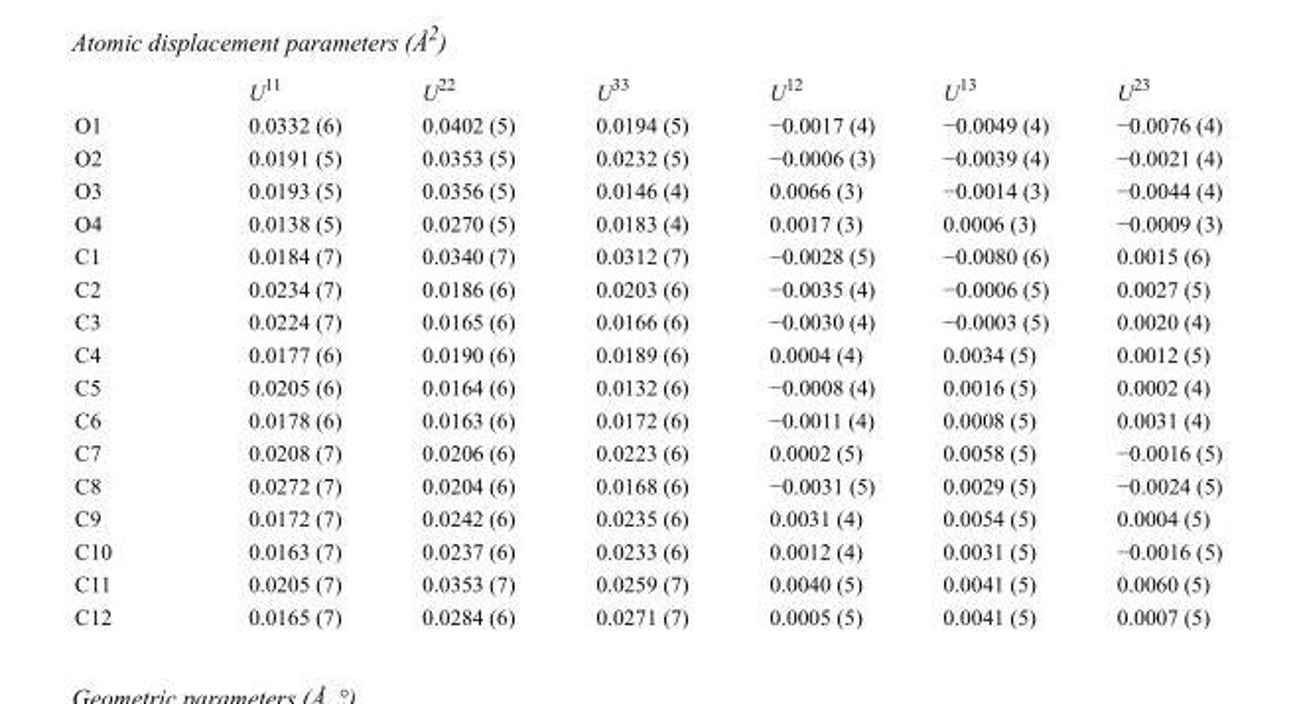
<table><thead><tr><td></td><td>U<sup>11</sup></td><td>U<sup>22</sup></td><td>U<sup>33</sup></td><td>U<sup>12</sup></td><td>U<sup>13</sup></td><td>U<sup>23</sup></td></tr></thead><tbody><tr><td>O1</td><td>0.0332 (6)</td><td>0.0402 (5)</td><td>0.0194 (5)</td><td>−0.0017 (4)</td><td>−0.0049 (4)</td><td>−0.0076 (4)</td></tr><tr><td>O2</td><td>0.0191 (5)</td><td>0.0353 (5)</td><td>0.0232 (5)</td><td>−0.0006 (3)</td><td>−0.0039 (4)</td><td>−0.0021 (4)</td></tr><tr><td>O3</td><td>0.0193 (5)</td><td>0.0356 (5)</td><td>0.0146 (4)</td><td>0.0066 (3)</td><td>−0.0014 (3)</td><td>−0.0044 (4)</td></tr><tr><td>O4</td><td>0.0138 (5)</td><td>0.0270 (5)</td><td>0.0183 (4)</td><td>0.0017 (3)</td><td>0.0006 (3)</td><td>−0.0009 (3)</td></tr><tr><td>C1</td><td>0.0184 (7)</td><td>0.0340 (7)</td><td>0.0312 (7)</td><td>−0.0028 (5)</td><td>−0.0080 (6)</td><td>0.0015 (6)</td></tr><tr><td>C2</td><td>0.0234 (7)</td><td>0.0186 (6)</td><td>0.0203 (6)</td><td>−0.0035 (4)</td><td>−0.0006 (5)</td><td>0.0027 (5)</td></tr><tr><td>C3</td><td>0.0224 (7)</td><td>0.0165 (6)</td><td>0.0166 (6)</td><td>−0.0030 (4)</td><td>−0.0003 (5)</td><td>0.0020 (4)</td></tr><tr><td>C4</td><td>0.0177 (6)</td><td>0.0190 (6)</td><td>0.0189 (6)</td><td>0.0004 (4)</td><td>0.0034 (5)</td><td>0.0012 (5)</td></tr><tr><td>C5</td><td>0.0205 (6)</td><td>0.0164 (6)</td><td>0.0132 (6)</td><td>−0.0008 (4)</td><td>0.0016 (5)</td><td>0.0002 (4)</td></tr><tr><td>C6</td><td>0.0178 (6)</td><td>0.0163 (6)</td><td>0.0172 (6)</td><td>−0.0011 (4)</td><td>0.0008 (5)</td><td>0.0031 (4)</td></tr><tr><td>C7</td><td>0.0208 (7)</td><td>0.0206 (6)</td><td>0.0223 (6)</td><td>0.0002 (5)</td><td>0.0058 (5)</td><td>−0.0016 (5)</td></tr><tr><td>C8</td><td>0.0272 (7)</td><td>0.0204 (6)</td><td>0.0168 (6)</td><td>−0.0031 (5)</td><td>0.0029 (5)</td><td>−0.0024 (5)</td></tr><tr><td>C9</td><td>0.0172 (7)</td><td>0.0242 (6)</td><td>0.0235 (6)</td><td>0.0031 (4)</td><td>0.0054 (5)</td><td>0.0004 (5)</td></tr><tr><td>C10</td><td>0.0163 (7)</td><td>0.0237 (6)</td><td>0.0233 (6)</td><td>0.0012 (4)</td><td>0.0031 (5)</td><td>−0.0016 (5)</td></tr><tr><td>C11</td><td>0.0205 (7)</td><td>0.0353 (7)</td><td>0.0259 (7)</td><td>0.0040 (5)</td><td>0.0041 (5)</td><td>0.0060 (5)</td></tr><tr><td>C12</td><td>0.0165 (7)</td><td>0.0284 (6)</td><td>0.0271 (7)</td><td>0.0005 (5)</td><td>0.0041 (5)</td><td>0.0007 (5)</td></tr></tbody></table>